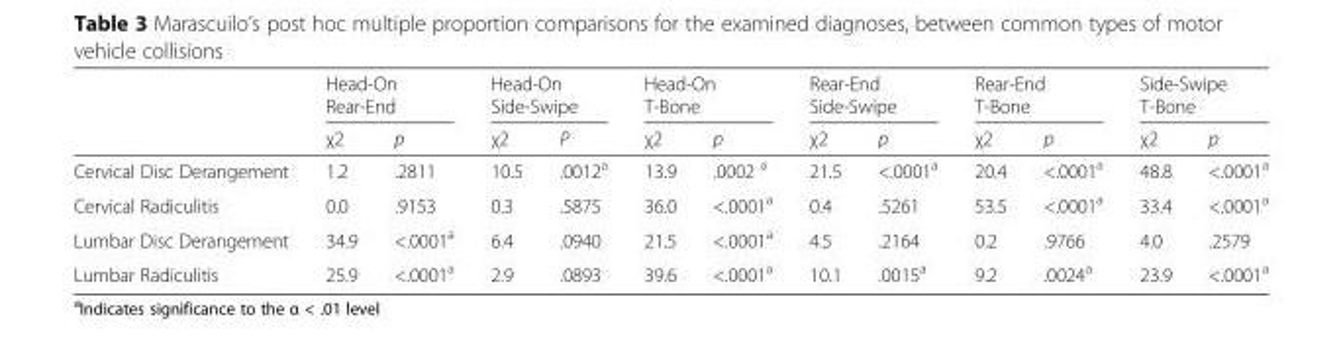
<table><thead><tr><td rowspan="2"></td><td colspan="2">Head-On Rear-End</td><td colspan="2">Head-On Side-Swipe</td><td colspan="2">Head-On T-Bone</td><td colspan="2">Rear-End Side-Swipe</td><td colspan="2">Rear-End T-Bone</td><td colspan="2">Side-Swipe T-Bone</td></tr><tr><td>χ2</td><td>p</td><td>χ2</td><td>P</td><td>χ2</td><td>p</td><td>χ2</td><td>p</td><td>χ2</td><td>p</td><td>χ2</td><td>p</td></tr></thead><tbody><tr><td>Cervical Disc Derangement</td><td>1.2</td><td>.2811</td><td>10.5</td><td>.0012<sup>a</sup></td><td>13.9</td><td>.0002 <sup>a</sup></td><td>21.5</td><td>&lt;.0001<sup>a</sup></td><td>20.4</td><td>&lt;.0001<sup>a</sup></td><td>48.8</td><td>&lt;.0001<sup>a</sup></td></tr><tr><td>Cervical Radiculitis</td><td>0.0</td><td>.9153</td><td>0.3</td><td>.5875</td><td>36.0</td><td>&lt;.0001<sup>a</sup></td><td>0.4</td><td>.5261</td><td>53.5</td><td>&lt;.0001<sup>a</sup></td><td>33.4</td><td>&lt;.0001<sup>a</sup></td></tr><tr><td>Lumbar Disc Derangement</td><td>34.9</td><td>&lt;.0001<sup>a</sup></td><td>6.4</td><td>.0940</td><td>21.5</td><td>&lt;.0001<sup>a</sup></td><td>4.5</td><td>.2164</td><td>0.2</td><td>.9766</td><td>4.0</td><td>.2579</td></tr><tr><td>Lumbar Radiculitis</td><td>25.9</td><td>&lt;.0001<sup>a</sup></td><td>2.9</td><td>.0893</td><td>39.6</td><td>&lt;.0001<sup>a</sup></td><td>10.1</td><td>.0015<sup>a</sup></td><td>9.2</td><td>.0024<sup>a</sup></td><td>23.9</td><td>&lt;.0001<sup>a</sup></td></tr></tbody></table>